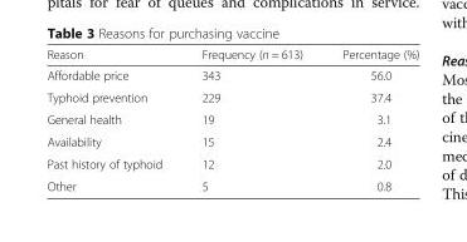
<table><thead><tr><td>Reason</td><td>Frequency (n = 613)</td><td>Percentage (%)</td></tr></thead><tbody><tr><td>Affordable price</td><td>343</td><td>56.0</td></tr><tr><td>Typhoid prevention</td><td>229</td><td>37.4</td></tr><tr><td>General health</td><td>19</td><td>3.1</td></tr><tr><td>Availability</td><td>15</td><td>2.4</td></tr><tr><td>Past history of typhoid</td><td>12</td><td>2.0</td></tr><tr><td>Other</td><td>5</td><td>0.8</td></tr></tbody></table>